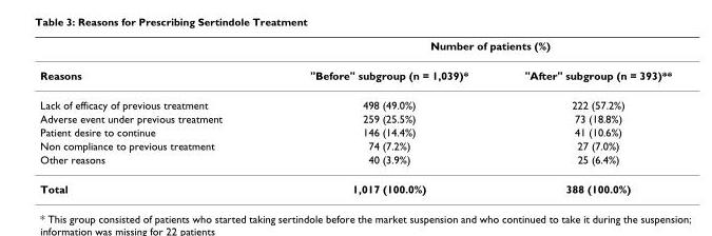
<table><thead><tr><td rowspan="2">Reasons</td><td colspan="2">Number of patients (%)</td></tr><tr><td>&quot;Before&quot; subgroup (n = 1,039)*</td><td>&quot;After&quot; subgroup (n = 393)**</td></tr></thead><tbody><tr><td>Lack of efficacy of previous treatment</td><td>498 (49.0%)</td><td>222 (57.2%)</td></tr><tr><td>Adverse event under previous treatment</td><td>259 (25.5%)</td><td>73 (18.8%)</td></tr><tr><td>Patient desire to continue</td><td>146 (14.4%)</td><td>41 (10.6%)</td></tr><tr><td>Non compliance to previous treatment</td><td>74 (7.2%)</td><td>27 (7.0%)</td></tr><tr><td>Other reasons</td><td>40 (3.9%)</td><td>25 (6.4%)</td></tr><tr><td>Total</td><td>1,017 (100.0%)</td><td>388 (100.0%)</td></tr></tbody></table>